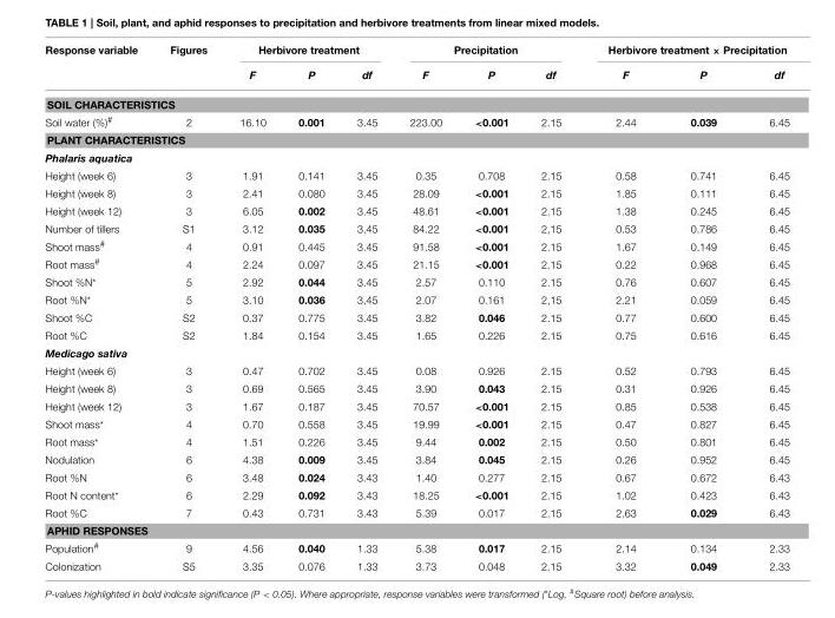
<table><thead><tr><td rowspan="2">Response variable</td><td rowspan="2">Figures</td><td colspan="3">Herbivore treatment</td><td colspan="3">Precipitation</td><td colspan="3">Herbivore treatment × Precipitation</td></tr><tr><td>F</td><td>P</td><td>df</td><td>F</td><td>P</td><td>df</td><td>F</td><td>P</td><td>df</td></tr></thead><tbody><tr><td colspan="11">SOIL CHARACTERISTICS</td></tr><tr><td>Soil water (%)<sup>#</sup></td><td>2</td><td>16.10</td><td>0.001</td><td>3.45</td><td>223.00</td><td>&lt;0.001</td><td>2.15</td><td>2.44</td><td>0.039</td><td>6.45</td></tr><tr><td colspan="11">PLANT CHARACTERISTICS</td></tr><tr><td colspan="11">Phalaris aquatica</td></tr><tr><td>Height (week 6)</td><td>3</td><td>1.91</td><td>0.141</td><td>3.45</td><td>0.35</td><td>0.708</td><td>2.15</td><td>0.58</td><td>0.741</td><td>6.45</td></tr><tr><td>Height (week 8)</td><td>3</td><td>2.41</td><td>0.080</td><td>3.45</td><td>28.09</td><td>&lt;0.001</td><td>2.15</td><td>1.85</td><td>0.111</td><td>6.45</td></tr><tr><td>Height (week 12)</td><td>3</td><td>6.05</td><td>0.002</td><td>3.45</td><td>48.61</td><td>&lt;0.001</td><td>2.15</td><td>1.38</td><td>0.245</td><td>6.45</td></tr><tr><td>Number of tillers</td><td>S1</td><td>3.12</td><td>0.035</td><td>3,45</td><td>84.22</td><td>&lt;0.001</td><td>2,15</td><td>0.53</td><td>0.786</td><td>6.45</td></tr><tr><td>Shoot mass<sup>#</sup></td><td>4</td><td>0.91</td><td>0.445</td><td>3.45</td><td>91.58</td><td>&lt;0.001</td><td>2.15</td><td>1.67</td><td>0.149</td><td>6.45</td></tr><tr><td>Root mass<sup>#</sup></td><td>4</td><td>2.24</td><td>0.097</td><td>3.45</td><td>21.15</td><td>&lt;0.001</td><td>2.15</td><td>0.22</td><td>0.968</td><td>6.45</td></tr><tr><td>Shoot %N*</td><td>5</td><td>2.92</td><td>0.044</td><td>3.45</td><td>2.57</td><td>0.110</td><td>2.15</td><td>0.76</td><td>0.607</td><td>6.45</td></tr><tr><td>Root %N*</td><td>5</td><td>3.10</td><td>0.036</td><td>3,45</td><td>2.07</td><td>0.161</td><td>2,15</td><td>2.21</td><td>0.059</td><td>6.45</td></tr><tr><td>Shoot %C</td><td>S2</td><td>0.37</td><td>0.775</td><td>3.45</td><td>3.82</td><td>0.046</td><td>2.15</td><td>0.77</td><td>0.600</td><td>6.45</td></tr><tr><td>Root %C</td><td>S2</td><td>1.84</td><td>0.154</td><td>3.45</td><td>1.65</td><td>0.226</td><td>2.15</td><td>0.75</td><td>0.616</td><td>6.45</td></tr><tr><td colspan="11">Medicago sativa</td></tr><tr><td>Height (week 6)</td><td>3</td><td>0.47</td><td>0.702</td><td>3.45</td><td>0.08</td><td>0.926</td><td>2.15</td><td>0.52</td><td>0.793</td><td>6.45</td></tr><tr><td>Height (week 8)</td><td>3</td><td>0.69</td><td>0.565</td><td>3.45</td><td>3.90</td><td>0.043</td><td>2.15</td><td>0.31</td><td>0.926</td><td>6.45</td></tr><tr><td>Height (week 12)</td><td>3</td><td>1.67</td><td>0.187</td><td>3.45</td><td>70.57</td><td>&lt;0.001</td><td>2.15</td><td>0.85</td><td>0.538</td><td>6.45</td></tr><tr><td>Shoot mass*</td><td>4</td><td>0.70</td><td>0.558</td><td>3.45</td><td>19.99</td><td>&lt;0.001</td><td>2.15</td><td>0.47</td><td>0.827</td><td>6.45</td></tr><tr><td>Root mass*</td><td>4</td><td>1.51</td><td>0.226</td><td>3.45</td><td>9.44</td><td>0.002</td><td>2.15</td><td>0.50</td><td>0.801</td><td>6.45</td></tr><tr><td>Nodulation</td><td>6</td><td>4.38</td><td>0.009</td><td>3.45</td><td>3.84</td><td>0.045</td><td>2.15</td><td>0.26</td><td>0.952</td><td>6.45</td></tr><tr><td>Root %N</td><td>6</td><td>3.48</td><td>0.024</td><td>3.43</td><td>1.40</td><td>0.277</td><td>2.15</td><td>0.67</td><td>0.672</td><td>6.43</td></tr><tr><td>Root N content*</td><td>6</td><td>2.29</td><td>0.092</td><td>3.43</td><td>18.25</td><td>&lt;0.001</td><td>2.15</td><td>1.02</td><td>0.423</td><td>6.43</td></tr><tr><td>Root %C</td><td>7</td><td>0.43</td><td>0.731</td><td>3.43</td><td>5.39</td><td>0.017</td><td>2.15</td><td>2.63</td><td>0.029</td><td>6.43</td></tr><tr><td colspan="11">APHID RESPONSES</td></tr><tr><td>Population<sup>#</sup></td><td>9</td><td>4.56</td><td>0.040</td><td>1.33</td><td>5.38</td><td>0.017</td><td>2.15</td><td>2.14</td><td>0.134</td><td>2.33</td></tr><tr><td>Colonization</td><td>S5</td><td>3.35</td><td>0.076</td><td>1.33</td><td>3.73</td><td>0.048</td><td>2.15</td><td>3.32</td><td>0.049</td><td>2.33</td></tr></tbody></table>